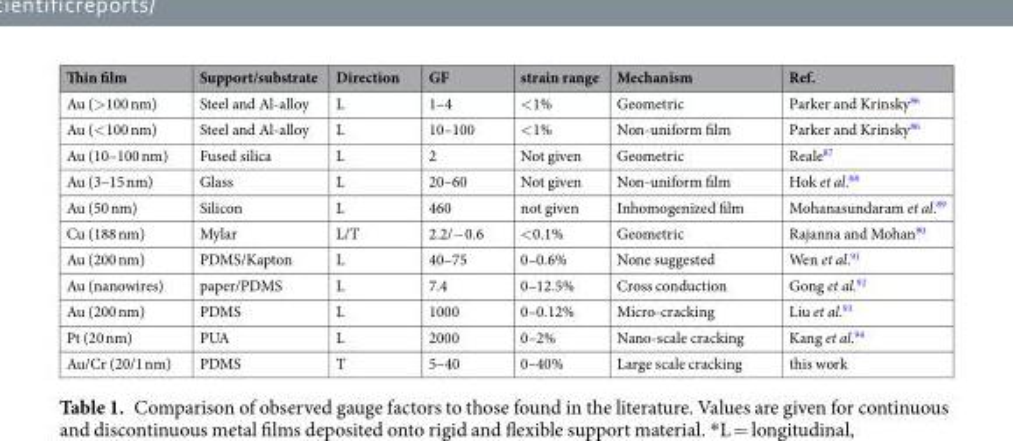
<table><thead><tr><td>Thin film</td><td>Support/substrate</td><td>Direction</td><td>GF</td><td>strain range</td><td>Mechanism</td><td>Ref.</td></tr></thead><tbody><tr><td>Au (&gt;100 nm)</td><td>Steel and Al-alloy</td><td>L</td><td>1–4</td><td>&lt;1%</td><td>Geometric</td><td>Parker and Krinsky<sup>86</sup></td></tr><tr><td>Au (&lt;100 nm)</td><td>Steel and Al-alloy</td><td>L</td><td>10–100</td><td>&lt;1%</td><td>Non-uniform film</td><td>Parker and Krinsky<sup>86</sup></td></tr><tr><td>Au (10–100 nm)</td><td>Fused silica</td><td>L</td><td>2</td><td>Not given</td><td>Geometric</td><td>Reale<sup>87</sup></td></tr><tr><td>Au (3–15 nm)</td><td>Glass</td><td>L</td><td>20–60</td><td>Not given</td><td>Non-uniform film</td><td>Hok et al.<sup>88</sup></td></tr><tr><td>Au (50 nm)</td><td>Silicon</td><td>L</td><td>460</td><td>not given</td><td>Inhomogenized film</td><td>Mohanasundaram et al.<sup>89</sup></td></tr><tr><td>Cu (188 nm)</td><td>Mylar</td><td>L/T</td><td>2.2/−0.6</td><td>&lt;0.1%</td><td>Geometric</td><td>Rajanna and Mohan<sup>90</sup></td></tr><tr><td>Au (200 nm)</td><td>PDMS/Kapton</td><td>L</td><td>40–75</td><td>0–0.6%</td><td>None suggested</td><td>Wen et al.<sup>91</sup></td></tr><tr><td>Au (nanowires)</td><td>paper/PDMS</td><td>L</td><td>7.4</td><td>0–12.5%</td><td>Cross conduction</td><td>Gong et al.<sup>92</sup></td></tr><tr><td>Au (200 nm)</td><td>PDMS</td><td>L</td><td>1000</td><td>0–0.12%</td><td>Micro-cracking</td><td>Liu et al.<sup>93</sup></td></tr><tr><td>Pt (20 nm)</td><td>PUA</td><td>L</td><td>2000</td><td>0–2%</td><td>Nano-scale cracking</td><td>Kang et al.<sup>94</sup></td></tr><tr><td>Au/Cr (20/1 nm)</td><td>PDMS</td><td>T</td><td>5–40</td><td>0–40%</td><td>Large scale cracking</td><td>this work</td></tr></tbody></table>